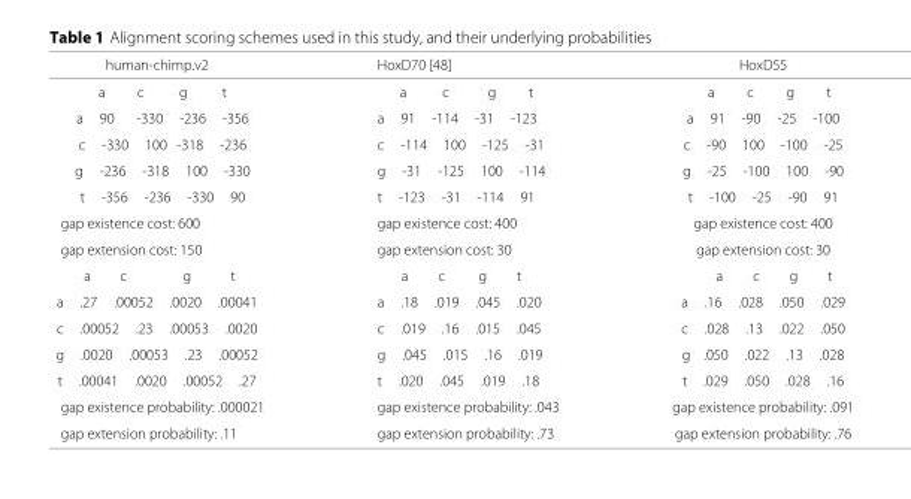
<table><thead><tr><td>human-chimp.v2</td><td>HoxD70 [48]</td><td>HoxD55</td></tr></thead><tbody><tr><td>a c g t</td><td>a c g t</td><td>a c g t</td></tr><tr><td>a 90 -330 -236 -356</td><td>a 91 -114 -31 -123</td><td>a 91 -90 -25 -100</td></tr><tr><td>c -330 100 -318 -236</td><td>c -114 100 -125 -31</td><td>c -90 100 -100 -25</td></tr><tr><td>g -236 -318 100 -330</td><td>g -31 -125 100 -114</td><td>g -25 -100 100 -90</td></tr><tr><td>t -356 -236 -330 90</td><td>t -123 -31 -114 91</td><td>t -100 -25 -90 91</td></tr><tr><td>gap existence cost: 600</td><td>gap existence cost: 400</td><td>gap existence cost: 400</td></tr><tr><td>gap extension cost: 150</td><td>gap extension cost: 30</td><td>gap extension cost: 30</td></tr><tr><td>a c g t</td><td>a c g t</td><td>a c g t</td></tr><tr><td>a .27 .00052 .0020 .00041</td><td>a .18 .019 .045 .020</td><td>a .16 .028 .050 .029</td></tr><tr><td>c .00052 .23 .00053 .0020</td><td>c .019 .16 .015 .045</td><td>c .028 .13 .022 .050</td></tr><tr><td>g .0020 .00053 .23 .00052</td><td>g .045 .015 .16 .019</td><td>g .050 .022 .13 .028</td></tr><tr><td>t .00041 .0020 .00052 .27</td><td>t .020 .045 .019 .18</td><td>t .029 .050 .028 .16</td></tr><tr><td>gap existence probability: .000021</td><td>gap existence probability: .043</td><td>gap existence probability: .091</td></tr><tr><td>gap extension probability: .11</td><td>gap extension probability: .73</td><td>gap extension probability: .76</td></tr></tbody></table>